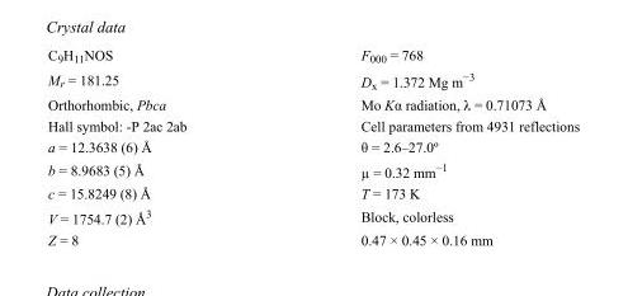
<table><tbody><tr><td>C<sub>9</sub>H<sub>11</sub>NOS</td><td>F000 = 768</td></tr><tr><td>M<sub>r</sub> = 181.25</td><td>D<sub>x</sub> = 1.372 Mg m<sup>−3</sup></td></tr><tr><td>Orthorhombic, Pbca</td><td>Mo Kα radiation, λ = 0.71073 Å</td></tr><tr><td>Hall symbol: -P 2ac 2ab</td><td>Cell parameters from 4931 reflections</td></tr><tr><td>a = 12.3638 (6) Å</td><td>θ = 2.6–27.0º</td></tr><tr><td>b = 8.9683 (5) Å</td><td>µ = 0.32 mm<sup>−1</sup></td></tr><tr><td>c = 15.8249 (8) Å</td><td>T = 173 K</td></tr><tr><td>V = 1754.7 (2) Å<sup>3</sup></td><td>Block, colorless</td></tr><tr><td>Z = 8</td><td>0.47 × 0.45 × 0.16 mm</td></tr></tbody></table>